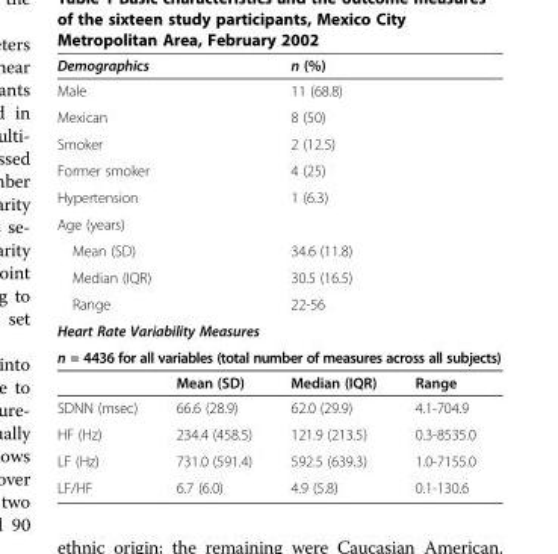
<table><thead><tr><td colspan="2">Demographics</td><td colspan="2">n (%)</td></tr></thead><tbody><tr><td colspan="2">Male</td><td colspan="2">11 (68.8)</td></tr><tr><td colspan="2">Mexican</td><td colspan="2">8 (50)</td></tr><tr><td colspan="2">Smoker</td><td colspan="2">2 (12.5)</td></tr><tr><td colspan="2">Former smoker</td><td colspan="2">4 (25)</td></tr><tr><td colspan="2">Hypertension</td><td colspan="2">1 (6.3)</td></tr><tr><td colspan="4">Age (years)</td></tr><tr><td colspan="2">Mean (SD)</td><td colspan="2">34.6 (11.8)</td></tr><tr><td colspan="2">Median (IQR)</td><td colspan="2">30.5 (16.5)</td></tr><tr><td colspan="2">Range</td><td colspan="2">22-56</td></tr><tr><td colspan="4">Heart Rate Variability Measures</td></tr><tr><td colspan="4">n = 4436 for all variables (total number of measures across all subjects)</td></tr><tr><td></td><td>Mean (SD)</td><td>Median (IQR)</td><td>Range</td></tr><tr><td>SDNN (msec)</td><td>66.6 (28.9)</td><td>62.0 (29.9)</td><td>4.1-704.9</td></tr><tr><td>HF (Hz)</td><td>234.4 (458.5)</td><td>121.9 (213.5)</td><td>0.3-8535.0</td></tr><tr><td>LF (Hz)</td><td>731.0 (591.4)</td><td>592.5 (639.3)</td><td>1.0-7155.0</td></tr><tr><td>LF/HF</td><td>6.7 (6.0)</td><td>4.9 (5.8)</td><td>0.1-130.6</td></tr></tbody></table>